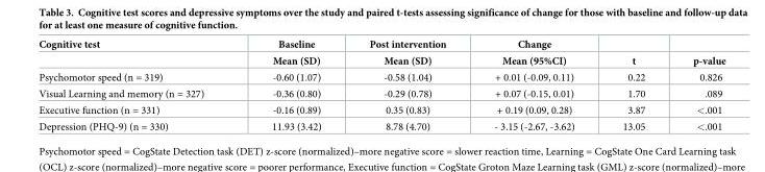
<table><thead><tr><td rowspan="2">Cognitive test</td><td rowspan="2">Baseline Mean (SD)</td><td rowspan="2">Post intervention Mean (SD)</td><td rowspan="2">Change Mean (95%CI)</td><td rowspan="2">t</td><td rowspan="2">p-value</td></tr><tr></tr></thead><tbody><tr><td>Psychomotor speed (n = 319)</td><td>-0.60 (1.07)</td><td>-0.58 (1.04)</td><td>+ 0.01 (-0.09, 0.11)</td><td>0.22</td><td>0.826</td></tr><tr><td>Visual Learning and memory (n = 327)</td><td>-0.36 (0.80)</td><td>-0.29 (0.78)</td><td>+ 0.07 (-0.15, 0.01)</td><td>1.70</td><td>.089</td></tr><tr><td>Executive function (n = 331)</td><td>-0.16 (0.89)</td><td>0.35 (0.83)</td><td>+ 0.19 (0.09, 0.28)</td><td>3.87</td><td>&lt;.001</td></tr><tr><td>Depression (PHQ-9) (n = 330)</td><td>11.93 (3.42)</td><td>8.78 (4.70)</td><td>- 3.15 (-2.67, -3.62)</td><td>13.05</td><td>&lt;.001</td></tr></tbody></table>